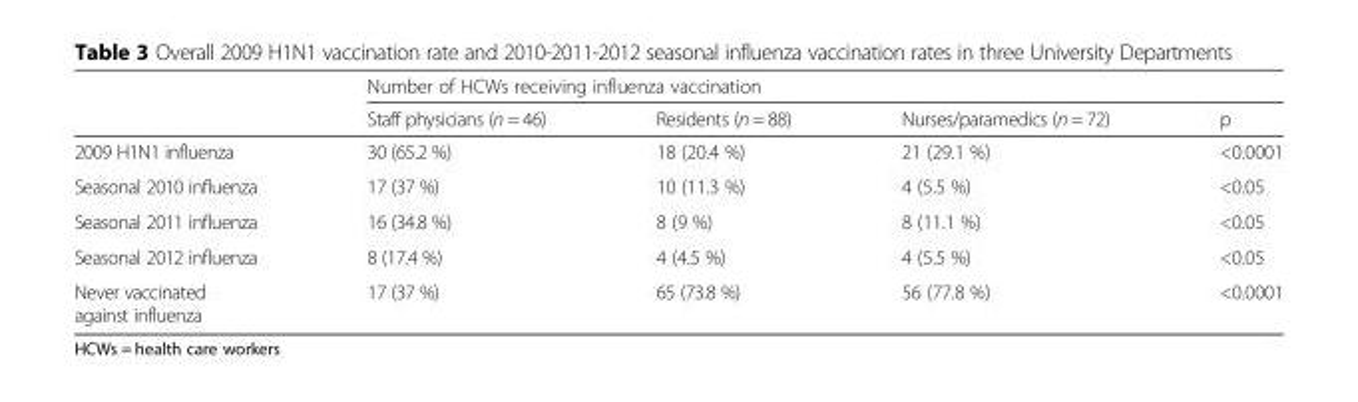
<table><thead><tr><td rowspan="2"></td><td colspan="4">Number of HCWs receiving influenza vaccination</td></tr><tr><td>Staff physicians (n = 46)</td><td>Residents (n = 88)</td><td>Nurses/paramedics (n = 72)</td><td>p</td></tr></thead><tbody><tr><td>2009 H1N1 influenza</td><td>30 (65.2 %)</td><td>18 (20.4 %)</td><td>21 (29.1 %)</td><td>&lt;0.0001</td></tr><tr><td>Seasonal 2010 influenza</td><td>17 (37 %)</td><td>10 (11.3 %)</td><td>4 (5.5 %)</td><td>&lt;0.05</td></tr><tr><td>Seasonal 2011 influenza</td><td>16 (34.8 %)</td><td>8 (9 %)</td><td>8 (11.1 %)</td><td>&lt;0.05</td></tr><tr><td>Seasonal 2012 influenza</td><td>8 (17.4 %)</td><td>4 (4.5 %)</td><td>4 (5.5 %)</td><td>&lt;0.05</td></tr><tr><td>Never vaccinated against influenza</td><td>17 (37 %)</td><td>65 (73.8 %)</td><td>56 (77.8 %)</td><td>&lt;0.0001</td></tr></tbody></table>